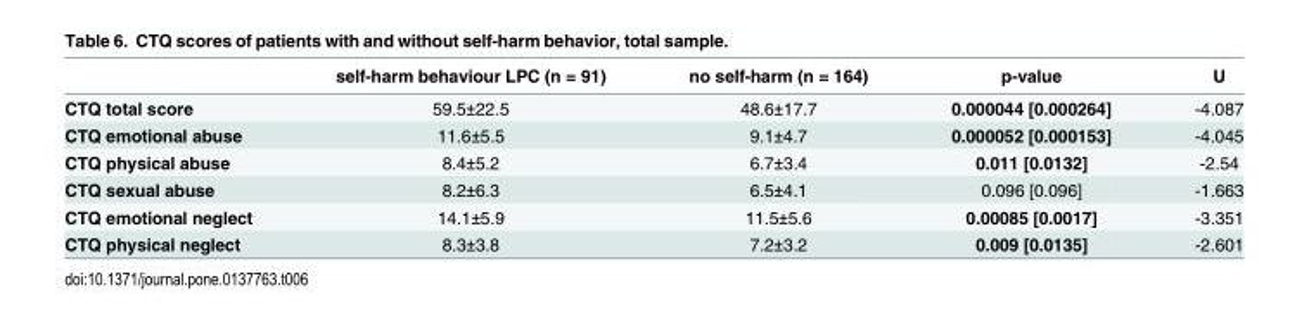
<table><thead><tr><td></td><td>self-harm behaviour LPC (n = 91)</td><td>no self-harm (n = 164)</td><td>p-value</td><td>U</td></tr></thead><tbody><tr><td>CTQ total score</td><td>59.5±22.5</td><td>48.6±17.7</td><td>0.000044 [0.000264]</td><td>-4.087</td></tr><tr><td>CTQ emotional abuse</td><td>11.6±5.5</td><td>9.1±4.7</td><td>0.000052 [0.000153]</td><td>-4.045</td></tr><tr><td>CTQ physical abuse</td><td>8.4±5.2</td><td>6.7±3.4</td><td>0.011 [0.0132]</td><td>-2.54</td></tr><tr><td>CTQ sexual abuse</td><td>8.2±6.3</td><td>6.5±4.1</td><td>0.096 [0.096]</td><td>-1.663</td></tr><tr><td>CTQ emotional neglect</td><td>14.1±5.9</td><td>11.5±5.6</td><td>0.00085 [0.0017]</td><td>-3.351</td></tr><tr><td>CTQ physical neglect</td><td>8.3±3.8</td><td>7.2±3.2</td><td>0.009 [0.0135]</td><td>-2.601</td></tr></tbody></table>